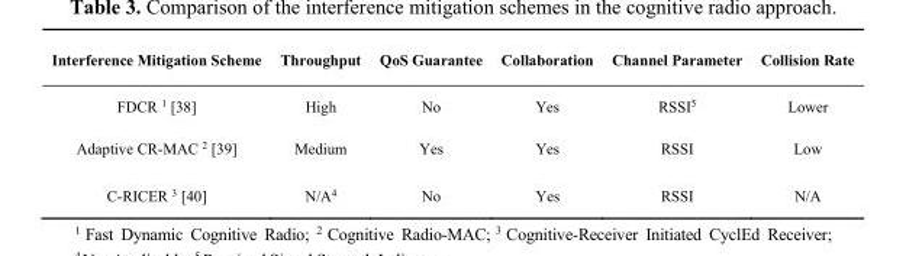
<table><thead><tr><td>Interference Mitigation Scheme</td><td>Throughput</td><td>QoS Guarantee</td><td>Collaboration</td><td>Channel Parameter</td><td>Collision Rate</td></tr></thead><tbody><tr><td>FDCR <sup>1</sup> [38]</td><td>High</td><td>No</td><td>Yes</td><td>RSSI<sup>5</sup></td><td>Lower</td></tr><tr><td>Adaptive CR-MAC <sup>2</sup> [39]</td><td>Medium</td><td>Yes</td><td>Yes</td><td>RSSI</td><td>Low</td></tr><tr><td>C-RICER <sup>3</sup> [40]</td><td>N/A<sup>4</sup></td><td>No</td><td>Yes</td><td>RSSI</td><td>N/A</td></tr></tbody></table>